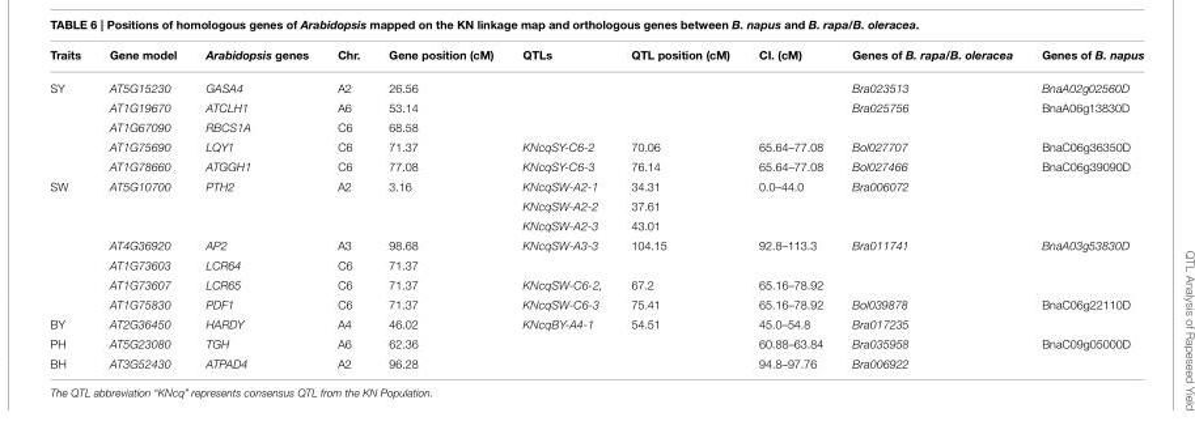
<table><thead><tr><td>Traits</td><td>Gene model</td><td>Arabidopsis genes</td><td>Chr.</td><td>Gene position (cM)</td><td>QTLs</td><td>QTL position (cM)</td><td>CI. (cM)</td><td>Genes of B. rapa/B. oleracea</td><td>Genes of B. napus</td></tr></thead><tbody><tr><td rowspan="5">SY</td><td>AT5G15230</td><td>GASA4</td><td>A2</td><td>26.56</td><td></td><td></td><td></td><td>Bra023513</td><td>BnaA02g02560D</td></tr><tr><td>AT1G19670</td><td>ATCLH1</td><td>A6</td><td>53.14</td><td></td><td></td><td></td><td>Bra025756</td><td>BnaA06g13830D</td></tr><tr><td>AT1G67090</td><td>RBCS1A</td><td>C6</td><td>68.58</td><td></td><td></td><td></td><td></td><td></td></tr><tr><td>AT1G75690</td><td>LQY1</td><td>C6</td><td>71.37</td><td>KNcqSY-C6-2</td><td>70.06</td><td>65.64–77.08</td><td>Bol027707</td><td>BnaC06g36350D</td></tr><tr><td>AT1G78660</td><td>ATGGH1</td><td>C6</td><td>77.08</td><td>KNcqSY-C6-3</td><td>76.14</td><td>65.64–77.08</td><td>Bol027466</td><td>BnaC06g39090D</td></tr><tr><td rowspan="7">SW</td><td>AT5G10700</td><td>PTH2</td><td>A2</td><td>3.16</td><td>KNcqSW-A2-1</td><td>34.31</td><td>0.0–44.0</td><td>Bra006072</td><td></td></tr><tr><td></td><td></td><td></td><td></td><td>KNcqSW-A2-2</td><td>37.61</td><td></td><td></td><td></td></tr><tr><td></td><td></td><td></td><td></td><td>KNcqSW-A2-3</td><td>43.01</td><td></td><td></td><td></td></tr><tr><td>AT4G36920</td><td>AP2</td><td>A3</td><td>98.68</td><td>KNcqSW-A3-3</td><td>104.15</td><td>92.8–113.3</td><td>Bra011741</td><td>BnaA03g53830D</td></tr><tr><td>AT1G73603</td><td>LCR64</td><td>C6</td><td>71.37</td><td></td><td></td><td></td><td></td><td></td></tr><tr><td>AT1G73607</td><td>LCR65</td><td>C6</td><td>71.37</td><td>KNcqSW-C6-2,</td><td>67.2</td><td>65.16–78.92</td><td></td><td></td></tr><tr><td>AT1G75830</td><td>PDF1</td><td>C6</td><td>71.37</td><td>KNcqSW-C6-3</td><td>75.41</td><td>65.16–78.92</td><td>Bol039878</td><td>BnaC06g22110D</td></tr><tr><td>BY</td><td>AT2G36450</td><td>HARDY</td><td>A4</td><td>46.02</td><td>KNcqBY-A4-1</td><td>54.51</td><td>45.0–54.8</td><td>Bra017235</td><td></td></tr><tr><td>PH</td><td>AT5G23080</td><td>TGH</td><td>A6</td><td>62.36</td><td></td><td></td><td>60.88–63.84</td><td>Bra035958</td><td>BnaC09g05000D</td></tr><tr><td>BH</td><td>AT3G52430</td><td>ATPAD4</td><td>A2</td><td>96.28</td><td></td><td></td><td>94.8–97.76</td><td>Bra006922</td><td></td></tr></tbody></table>